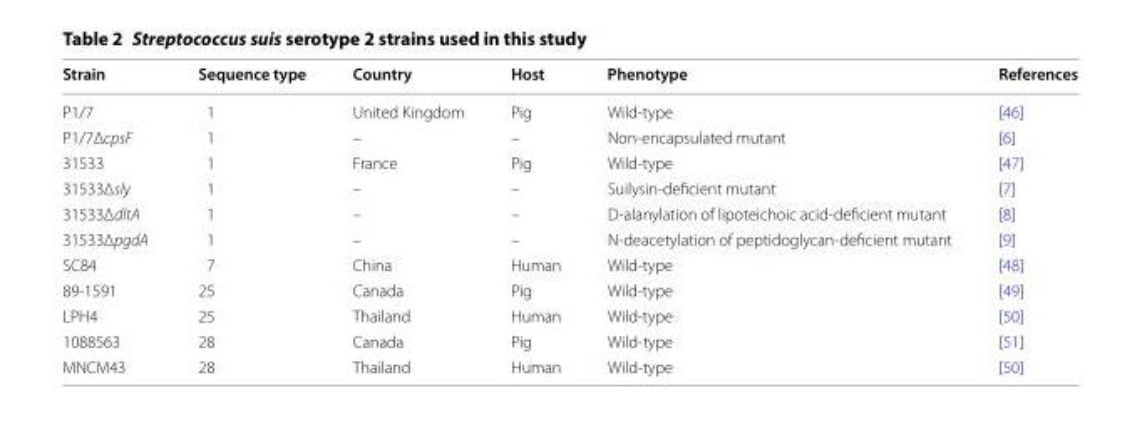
<table><thead><tr><td>Strain</td><td>Sequence type</td><td>Country</td><td>Host</td><td>Phenotype</td><td>References</td></tr></thead><tbody><tr><td>P1/7</td><td>1</td><td>United Kingdom</td><td>Pig</td><td>Wild‑type</td><td>[46]</td></tr><tr><td>P1/7ΔcpsF</td><td>1</td><td>–</td><td>–</td><td>Non‑encapsulated mutant</td><td>[6]</td></tr><tr><td>31533</td><td>1</td><td>France</td><td>Pig</td><td>Wild‑type</td><td>[47]</td></tr><tr><td>31533Δsly</td><td>1</td><td>–</td><td>–</td><td>Suilysin‑deficient mutant</td><td>[7]</td></tr><tr><td>31533ΔdltA</td><td>1</td><td>–</td><td>–</td><td>D‑alanylation of lipoteichoic acid‑deficient mutant</td><td>[8]</td></tr><tr><td>31533ΔpgdA</td><td>1</td><td>–</td><td>–</td><td>N‑deacetylation of peptidoglycan‑deficient mutant</td><td>[9]</td></tr><tr><td>SC84</td><td>7</td><td>China</td><td>Human</td><td>Wild‑type</td><td>[48]</td></tr><tr><td>89‑1591</td><td>25</td><td>Canada</td><td>Pig</td><td>Wild‑type</td><td>[49]</td></tr><tr><td>LPH4</td><td>25</td><td>Thailand</td><td>Human</td><td>Wild‑type</td><td>[50]</td></tr><tr><td>1088563</td><td>28</td><td>Canada</td><td>Pig</td><td>Wild‑type</td><td>[51]</td></tr><tr><td>MNCM43</td><td>28</td><td>Thailand</td><td>Human</td><td>Wild‑type</td><td>[50]</td></tr></tbody></table>